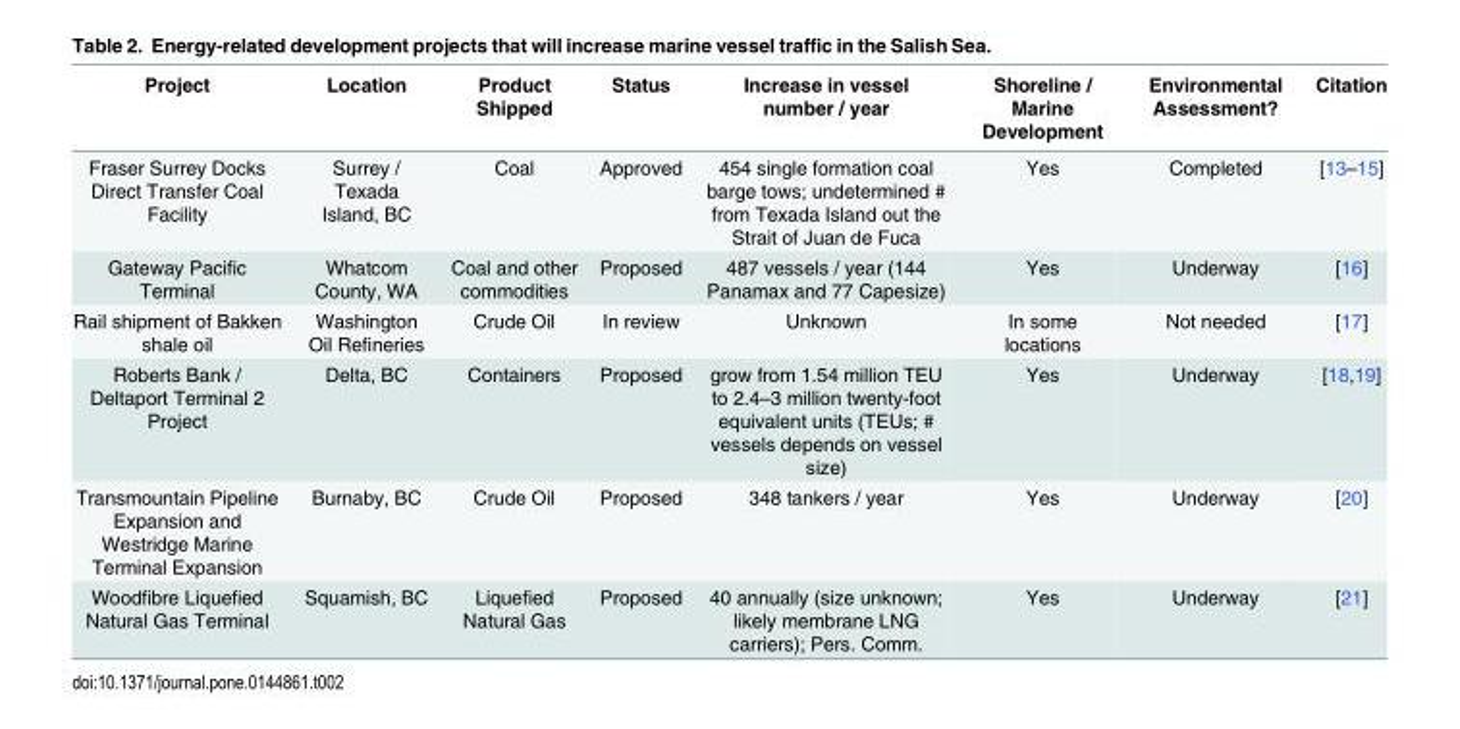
<table><thead><tr><td>Project</td><td>Location</td><td>Product Shipped</td><td>Status</td><td>Increase in vessel number / year</td><td>Shoreline / Marine Development</td><td>Environmental Assessment?</td><td>Citation</td></tr></thead><tbody><tr><td>Fraser Surrey Docks Direct Transfer Coal Facility</td><td>Surrey / Texada Island, BC</td><td>Coal</td><td>Approved</td><td>454 single formation coal barge tows; undetermined # from Texada Island out the Strait of Juan de Fuca</td><td>Yes</td><td>Completed</td><td>[13–15]</td></tr><tr><td>Gateway Pacific Terminal</td><td>Whatcom County, WA</td><td>Coal and other commodities</td><td>Proposed</td><td>487 vessels / year (144 Panamax and 77 Capesize)</td><td>Yes</td><td>Underway</td><td>[16]</td></tr><tr><td>Rail shipment of Bakken shale oil</td><td>Washington Oil Refineries</td><td>Crude Oil</td><td>In review</td><td>Unknown</td><td>In some locations</td><td>Not needed</td><td>[17]</td></tr><tr><td>Roberts Bank / Deltaport Terminal 2 Project</td><td>Delta, BC</td><td>Containers</td><td>Proposed</td><td>grow from 1.54 million TEU to 2.4–3 million twenty-foot equivalent units (TEUs; # vessels depends on vessel size)</td><td>Yes</td><td>Underway</td><td>[18,19]</td></tr><tr><td>Transmountain Pipeline Expansion and Westridge Marine Terminal Expansion</td><td>Burnaby, BC</td><td>Crude Oil</td><td>Proposed</td><td>348 tankers / year</td><td>Yes</td><td>Underway</td><td>[20]</td></tr><tr><td>Woodfibre Liquefied Natural Gas Terminal</td><td>Squamish, BC</td><td>Liquefied Natural Gas</td><td>Proposed</td><td>40 annually (size unknown; likely membrane LNG carriers); Pers. Comm.</td><td>Yes</td><td>Underway</td><td>[21]</td></tr></tbody></table>